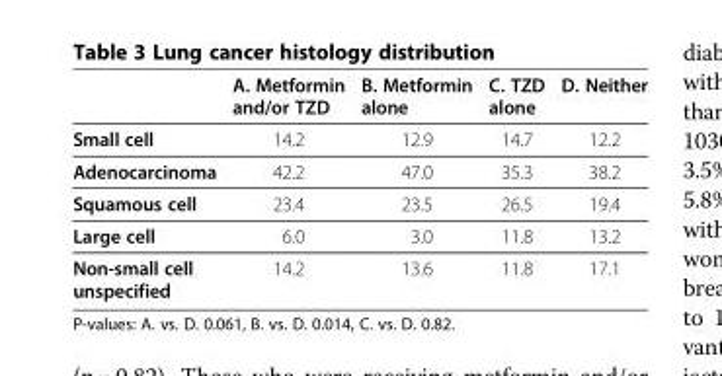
<table><thead><tr><td></td><td>A. Metformin and/or TZD</td><td>B. Metformin alone</td><td>C. TZD alone</td><td>D. Neither</td></tr></thead><tbody><tr><td>Small cell</td><td>14.2</td><td>12.9</td><td>14.7</td><td>12.2</td></tr><tr><td>Adenocarcinoma</td><td>42.2</td><td>47.0</td><td>35.3</td><td>38.2</td></tr><tr><td>Squamous cell</td><td>23.4</td><td>23.5</td><td>26.5</td><td>19.4</td></tr><tr><td>Large cell</td><td>6.0</td><td>3.0</td><td>11.8</td><td>13.2</td></tr><tr><td>Non-small cell unspecified</td><td>14.2</td><td>13.6</td><td>11.8</td><td>17.1</td></tr></tbody></table>